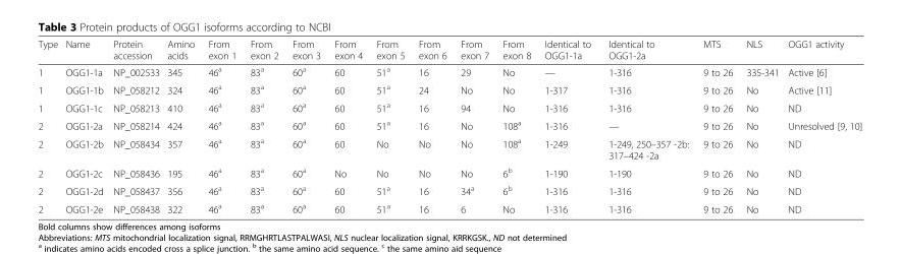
<table><thead><tr><td>Type</td><td>Name</td><td>Protein accession</td><td>Amino acids</td><td>From exon 1</td><td>From exon 2</td><td>From exon 3</td><td>From exon 4</td><td>From exon 5</td><td>From exon 6</td><td>From exon 7</td><td>From exon 8</td><td>Identical to OGG1-1a</td><td>Identical to OGG1-2a</td><td>MTS</td><td>NLS</td><td>OGG1 activity</td></tr></thead><tbody><tr><td>1</td><td>OGG1-1a</td><td>NP_002533</td><td>345</td><td>46<sup>a</sup></td><td>83<sup>a</sup></td><td>60<sup>a</sup></td><td>60</td><td>51<sup>a</sup></td><td>16</td><td>29</td><td>No</td><td>—</td><td>1-316</td><td>9 to 26</td><td>335-341</td><td>Active [6]</td></tr><tr><td>1</td><td>OGG1-1b</td><td>NP_058212</td><td>324</td><td>46<sup>a</sup></td><td>83<sup>a</sup></td><td>60<sup>a</sup></td><td>60</td><td>51<sup>a</sup></td><td>24</td><td>No</td><td>No</td><td>1-317</td><td>1-316</td><td>9 to 26</td><td>No</td><td>Active [11]</td></tr><tr><td>1</td><td>OGG1-1c</td><td>NP_058213</td><td>410</td><td>46<sup>a</sup></td><td>83<sup>a</sup></td><td>60<sup>a</sup></td><td>60</td><td>51<sup>a</sup></td><td>16</td><td>94</td><td>No</td><td>1-316</td><td>1-316</td><td>9 to 26</td><td>No</td><td>ND</td></tr><tr><td>2</td><td>OGG1-2a</td><td>NP_058214</td><td>424</td><td>46<sup>a</sup></td><td>83<sup>a</sup></td><td>60<sup>a</sup></td><td>60</td><td>51<sup>a</sup></td><td>16</td><td>No</td><td>108<sup>a</sup></td><td>1-316</td><td>—</td><td>9 to 26</td><td>No</td><td>Unresolved [9, 10]</td></tr><tr><td>2</td><td>OGG1-2b</td><td>NP_058434</td><td>357</td><td>46<sup>a</sup></td><td>83<sup>a</sup></td><td>60<sup>a</sup></td><td>60</td><td>No</td><td>No</td><td>No</td><td>108<sup>a</sup></td><td>1-249</td><td>1-249, 250–357 -2b: 317–424 -2a</td><td>9 to 26</td><td>No</td><td>ND</td></tr><tr><td>2</td><td>OGG1-2c</td><td>NP_058436</td><td>195</td><td>46<sup>a</sup></td><td>83<sup>a</sup></td><td>60<sup>a</sup></td><td>No</td><td>No</td><td>No</td><td>No</td><td>6<sup>b</sup></td><td>1-190</td><td>1-190</td><td>9 to 26</td><td>No</td><td>ND</td></tr><tr><td>2</td><td>OGG1-2d</td><td>NP_058437</td><td>356</td><td>46<sup>a</sup></td><td>83<sup>a</sup></td><td>60<sup>a</sup></td><td>60</td><td>51<sup>a</sup></td><td>16</td><td>34<sup>a</sup></td><td>6<sup>b</sup></td><td>1-316</td><td>1-316</td><td>9 to 26</td><td>No</td><td>ND</td></tr><tr><td>2</td><td>OGG1-2e</td><td>NP_058438</td><td>322</td><td>46<sup>a</sup></td><td>83<sup>a</sup></td><td>60<sup>a</sup></td><td>60</td><td>51<sup>a</sup></td><td>16</td><td>6</td><td>No</td><td>1-316</td><td>1-316</td><td>9 to 26</td><td>No</td><td>ND</td></tr></tbody></table>